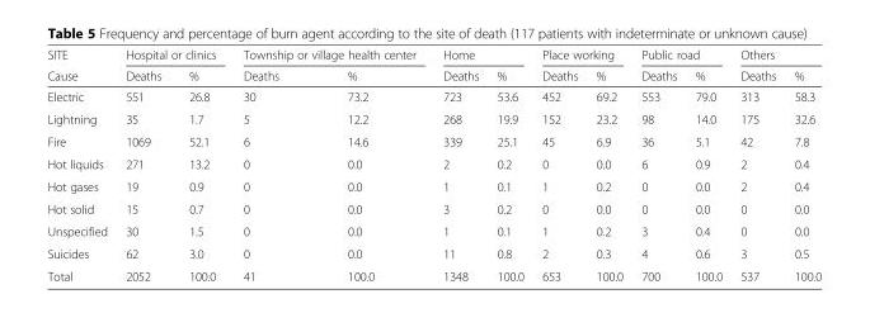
<table><thead><tr><td rowspan="2">SITE Cause</td><td colspan="2">Hospital or clinics</td><td colspan="2">Township or village health center</td><td colspan="2">Home</td><td colspan="2">Place working</td><td colspan="2">Public road</td><td colspan="2">Others</td></tr><tr><td>Deaths</td><td>%</td><td>Deaths</td><td>%</td><td>Deaths</td><td>%</td><td>Deaths</td><td>%</td><td>Deaths</td><td>%</td><td>Deaths</td><td>%</td></tr></thead><tbody><tr><td>Electric</td><td>551</td><td>26.8</td><td>30</td><td>73.2</td><td>723</td><td>53.6</td><td>452</td><td>69.2</td><td>553</td><td>79.0</td><td>313</td><td>58.3</td></tr><tr><td>Lightning</td><td>35</td><td>1.7</td><td>5</td><td>12.2</td><td>268</td><td>19.9</td><td>152</td><td>23.2</td><td>98</td><td>14.0</td><td>175</td><td>32.6</td></tr><tr><td>Fire</td><td>1069</td><td>52.1</td><td>6</td><td>14.6</td><td>339</td><td>25.1</td><td>45</td><td>6.9</td><td>36</td><td>5.1</td><td>42</td><td>7.8</td></tr><tr><td>Hot liquids</td><td>271</td><td>13.2</td><td>0</td><td>0.0</td><td>2</td><td>0.2</td><td>0</td><td>0.0</td><td>6</td><td>0.9</td><td>2</td><td>0.4</td></tr><tr><td>Hot gases</td><td>19</td><td>0.9</td><td>0</td><td>0.0</td><td>1</td><td>0.1</td><td>1</td><td>0.2</td><td>0</td><td>0.0</td><td>2</td><td>0.4</td></tr><tr><td>Hot solid</td><td>15</td><td>0.7</td><td>0</td><td>0.0</td><td>3</td><td>0.2</td><td>0</td><td>0.0</td><td>0</td><td>0.0</td><td>0</td><td>0.0</td></tr><tr><td>Unspecified</td><td>30</td><td>1.5</td><td>0</td><td>0.0</td><td>1</td><td>0.1</td><td>1</td><td>0.2</td><td>3</td><td>0.4</td><td>0</td><td>0.0</td></tr><tr><td>Suicides</td><td>62</td><td>3.0</td><td>0</td><td>0.0</td><td>11</td><td>0.8</td><td>2</td><td>0.3</td><td>4</td><td>0.6</td><td>3</td><td>0.5</td></tr><tr><td>Total</td><td>2052</td><td>100.0</td><td>41</td><td>100.0</td><td>1348</td><td>100.0</td><td>653</td><td>100.0</td><td>700</td><td>100.0</td><td>537</td><td>100.0</td></tr></tbody></table>